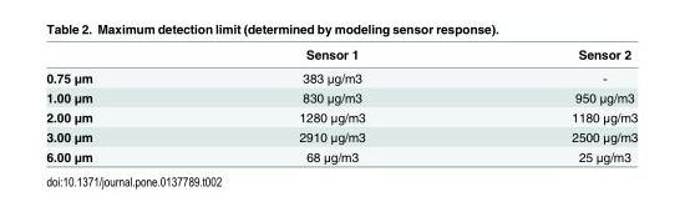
<table><thead><tr><td></td><td>Sensor 1</td><td>Sensor 2</td></tr></thead><tbody><tr><td>0.75 μm</td><td>383 μg/m3</td><td>-</td></tr><tr><td>1.00 μm</td><td>830 μg/m3</td><td>950 μg/m3</td></tr><tr><td>2.00 μm</td><td>1280 μg/m3</td><td>1180 μg/m3</td></tr><tr><td>3.00 μm</td><td>2910 μg/m3</td><td>2500 μg/m3</td></tr><tr><td>6.00 μm</td><td>68 μg/m3</td><td>25 μg/m3</td></tr></tbody></table>